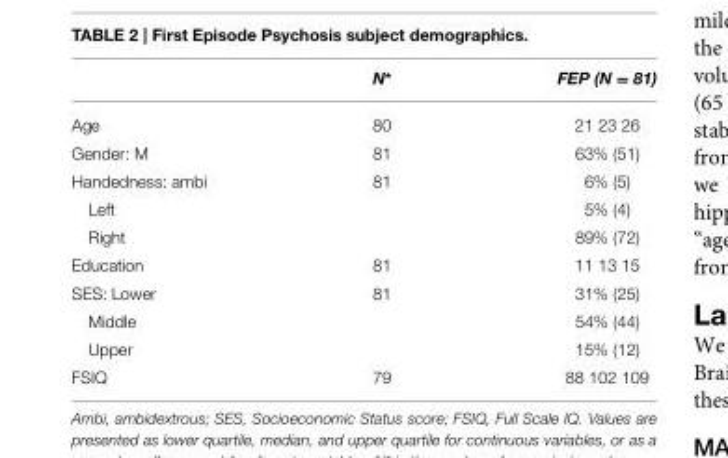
<table><thead><tr><td></td><td>N*</td><td>FEP (N = 81)</td></tr></thead><tbody><tr><td>Age</td><td>80</td><td>21 23 26</td></tr><tr><td>Gender: M</td><td>81</td><td>63% (51)</td></tr><tr><td>Handedness: ambi</td><td>81</td><td>6% (5)</td></tr><tr><td>Left</td><td></td><td>5% (4)</td></tr><tr><td>Right</td><td></td><td>89% (72)</td></tr><tr><td>Education</td><td>81</td><td>11 13 15</td></tr><tr><td>SES: Lower</td><td>81</td><td>31% (25)</td></tr><tr><td>Middle</td><td></td><td>54% (44)</td></tr><tr><td>Upper</td><td></td><td>15% (12)</td></tr><tr><td>FSIQ</td><td>79</td><td>88 102 109</td></tr></tbody></table>